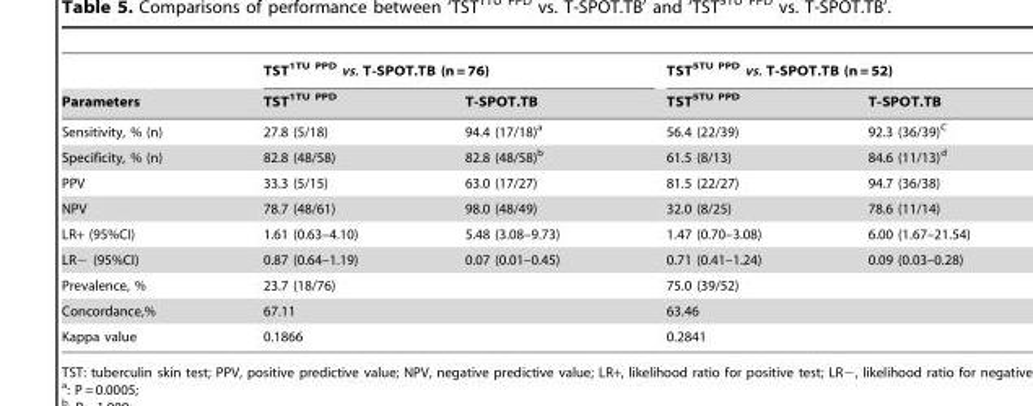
<table><thead><tr><td rowspan="2">Parameters</td><td colspan="2">TST<sup>1TU PPD</sup> vs. T-SPOT.TB (n = 76)</td><td colspan="2">TST<sup>5TU PPD</sup> vs. T-SPOT.TB (n = 52)</td></tr><tr><td>TST<sup>1TU PPD</sup></td><td>T-SPOT.TB</td><td>TST<sup>5TU PPD</sup></td><td>T-SPOT.TB</td></tr></thead><tbody><tr><td>Sensitivity, % (n)</td><td>27.8 (5/18)</td><td>94.4 (17/18)<sup>a</sup></td><td>56.4 (22/39)</td><td>92.3 (36/39)<sup>C</sup></td></tr><tr><td>Specificity, % (n)</td><td>82.8 (48/58)</td><td>82.8 (48/58)<sup>b</sup></td><td>61.5 (8/13)</td><td>84.6 (11/13)<sup>d</sup></td></tr><tr><td>PPV</td><td>33.3 (5/15)</td><td>63.0 (17/27)</td><td>81.5 (22/27)</td><td>94.7 (36/38)</td></tr><tr><td>NPV</td><td>78.7 (48/61)</td><td>98.0 (48/49)</td><td>32.0 (8/25)</td><td>78.6 (11/14)</td></tr><tr><td>LR+ (95%CI)</td><td>1.61 (0.63–4.10)</td><td>5.48 (3.08–9.73)</td><td>1.47 (0.70–3.08)</td><td>6.00 (1.67–21.54)</td></tr><tr><td>LR− (95%CI)</td><td>0.87 (0.64–1.19)</td><td>0.07 (0.01–0.45)</td><td>0.71 (0.41–1.24)</td><td>0.09 (0.03–0.28)</td></tr><tr><td>Prevalence, %</td><td colspan="2">23.7 (18/76)</td><td colspan="2">75.0 (39/52)</td></tr><tr><td>Concordance,%</td><td colspan="2">67.11</td><td colspan="2">63.46</td></tr><tr><td>Kappa value</td><td colspan="2">0.1866</td><td colspan="2">0.2841</td></tr></tbody></table>